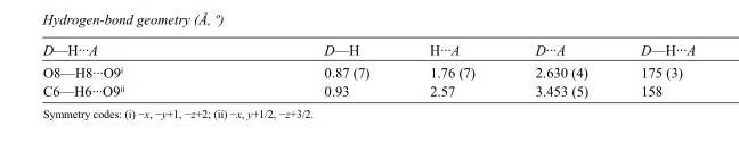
<table><tbody><tr><td>D—H···A</td><td>D—H</td><td>H···A</td><td>D···A</td><td>D—H···A</td></tr><tr><td>O8—H8···O9<sup>i</sup></td><td>0.87 (7)</td><td>1.76 (7)</td><td>2.630 (4)</td><td>175 (3)</td></tr><tr><td>C6—H6···O9<sup>ii</sup></td><td>0.93</td><td>2.57</td><td>3.453 (5)</td><td>158</td></tr></tbody></table>